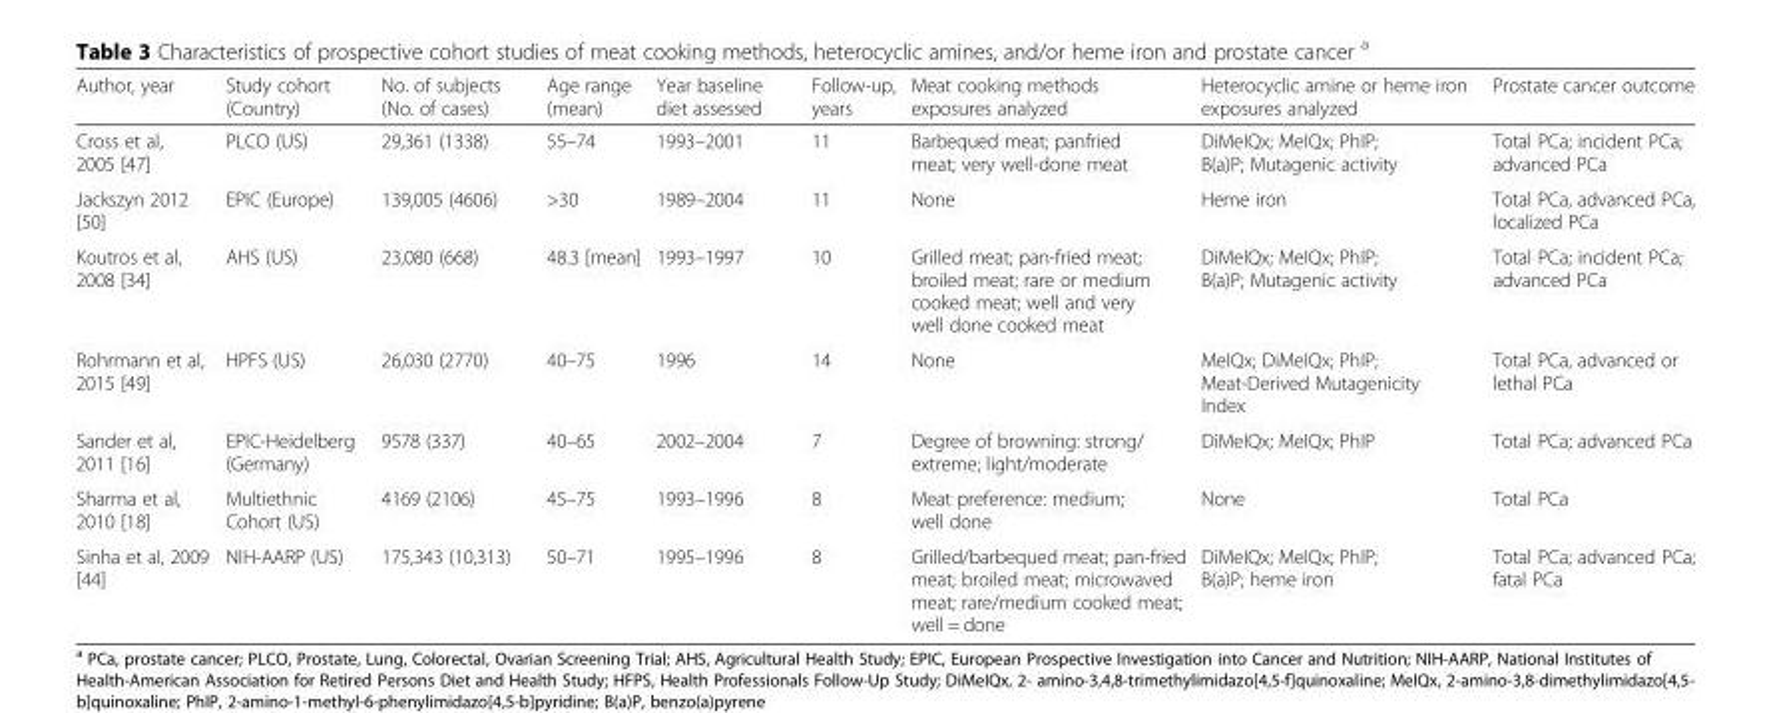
<table><thead><tr><td>Author, year</td><td>Study cohort (Country)</td><td>No. of subjects (No. of cases)</td><td>Age range (mean)</td><td>Year baseline diet assessed</td><td>Follow-up, years</td><td>Meat cooking methods exposures analyzed</td><td>Heterocyclic amine or heme iron exposures analyzed</td><td>Prostate cancer outcome</td></tr></thead><tbody><tr><td>Cross et al, 2005 [47]</td><td>PLCO (US)</td><td>29,361 (1338)</td><td>55–74</td><td>1993–2001</td><td>11</td><td>Barbequed meat; panfried meat; very well-done meat</td><td>DiMeIQx; MeIQx; PhIP; B(a)P; Mutagenic activity</td><td>Total PCa; incident PCa; advanced PCa</td></tr><tr><td>Jackszyn 2012 [50]</td><td>EPIC (Europe)</td><td>139,005 (4606)</td><td>&gt;30</td><td>1989–2004</td><td>11</td><td>None</td><td>Heme iron</td><td>Total PCa, advanced PCa, localized PCa</td></tr><tr><td>Koutros et al, 2008 [34]</td><td>AHS (US)</td><td>23,080 (668)</td><td>48.3 [mean]</td><td>1993–1997</td><td>10</td><td>Grilled meat; pan-fried meat; broiled meat; rare or medium cooked meat; well and very well done cooked meat</td><td>DiMeIQx; MeIQx; PhIP; B(a)P; Mutagenic activity</td><td>Total PCa; incident PCa; advanced PCa</td></tr><tr><td>Rohrmann et al, 2015 [49]</td><td>HPFS (US)</td><td>26,030 (2770)</td><td>40–75</td><td>1996</td><td>14</td><td>None</td><td>MeIQx; DiMeIQx; PhIP; Meat-Derived Mutagenicity Index</td><td>Total PCa, advanced or lethal PCa</td></tr><tr><td>Sander et al, 2011 [16]</td><td>EPIC-Heidelberg (Germany)</td><td>9578 (337)</td><td>40–65</td><td>2002–2004</td><td>7</td><td>Degree of browning: strong/ extreme; light/moderate</td><td>DiMeIQx; MeIQx; PhIP</td><td>Total PCa; advanced PCa</td></tr><tr><td>Sharma et al, 2010 [18]</td><td>Multiethnic Cohort (US)</td><td>4169 (2106)</td><td>45–75</td><td>1993–1996</td><td>8</td><td>Meat preference: medium; well done</td><td>None</td><td>Total PCa</td></tr><tr><td>Sinha et al, 2009 [44]</td><td>NIH-AARP (US)</td><td>175,343 (10,313)</td><td>50–71</td><td>1995–1996</td><td>8</td><td>Grilled/barbequed meat; pan-fried meat; broiled meat; microwaved meat; rare/medium cooked meat; well = done</td><td>DiMeIQx; MeIQx; PhIP; B(a)P; heme iron</td><td>Total PCa; advanced PCa; fatal PCa</td></tr></tbody></table>